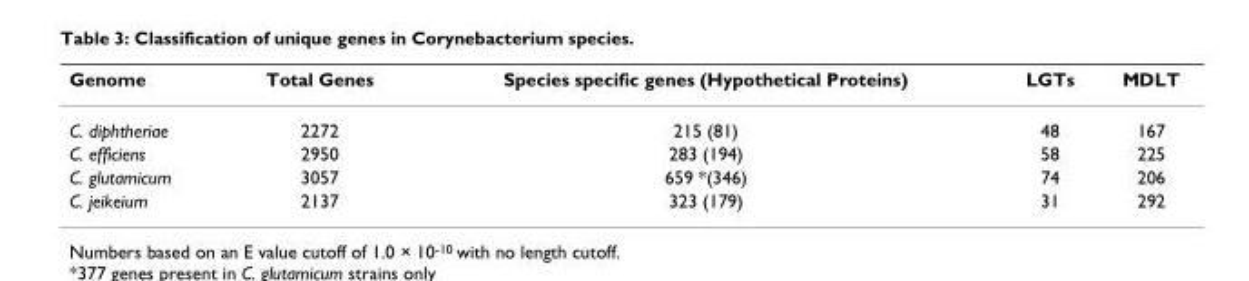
<table><thead><tr><td>Genome</td><td>Total Genes</td><td>Species specific genes (Hypothetical Proteins)</td><td>LGTs</td><td>MDLT</td></tr></thead><tbody><tr><td>C. diphtheriae</td><td>2272</td><td>215 (81)</td><td>48</td><td>167</td></tr><tr><td>C. efficiens</td><td>2950</td><td>283 (194)</td><td>58</td><td>225</td></tr><tr><td>C. glutamicum</td><td>3057</td><td>659 *(346)</td><td>74</td><td>206</td></tr><tr><td>C. jeikeium</td><td>2137</td><td>323 (179)</td><td>31</td><td>292</td></tr></tbody></table>